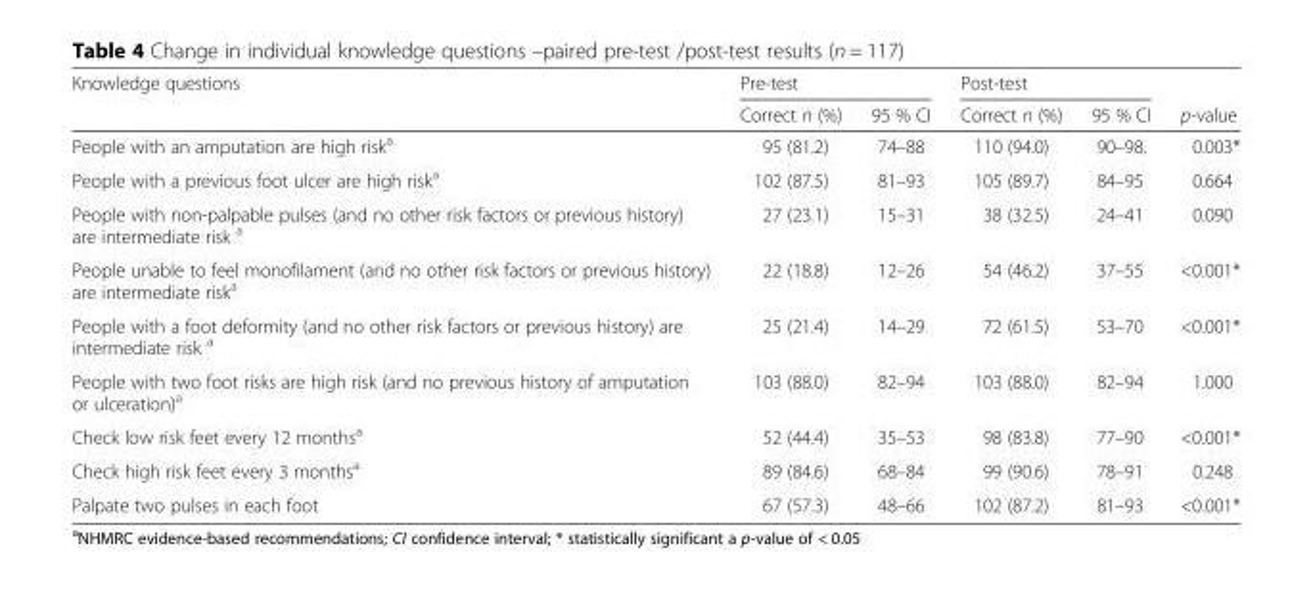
<table><thead><tr><td rowspan="2">Knowledge questions</td><td colspan="2">Pre-test</td><td colspan="2">Post-test</td><td rowspan="2">p-value</td></tr><tr><td>Correct n (%)</td><td>95 % CI</td><td>Correct n (%)</td><td>95 % CI</td></tr></thead><tbody><tr><td>People with an amputation are high risk<sup>a</sup></td><td>95 (81.2)</td><td>74–88</td><td>110 (94.0)</td><td>90–98.</td><td>0.003*</td></tr><tr><td>People with a previous foot ulcer are high risk<sup>a</sup></td><td>102 (87.5)</td><td>81–93</td><td>105 (89.7)</td><td>84–95</td><td>0.664</td></tr><tr><td>People with non-palpable pulses (and no other risk factors or previous history) are intermediate risk <sup>a</sup></td><td>27 (23.1)</td><td>15–31</td><td>38 (32.5)</td><td>24–41</td><td>0.090</td></tr><tr><td>People unable to feel monofilament (and no other risk factors or previous history) are intermediate risk<sup>a</sup></td><td>22 (18.8)</td><td>12–26</td><td>54 (46.2)</td><td>37–55</td><td>&lt;0.001*</td></tr><tr><td>People with a foot deformity (and no other risk factors or previous history) are intermediate risk <sup>a</sup></td><td>25 (21.4)</td><td>14–29</td><td>72 (61.5)</td><td>53–70</td><td>&lt;0.001*</td></tr><tr><td>People with two foot risks are high risk (and no previous history of amputation or ulceration)<sup>a</sup></td><td>103 (88.0)</td><td>82–94</td><td>103 (88.0)</td><td>82–94</td><td>1.000</td></tr><tr><td>Check low risk feet every 12 months<sup>a</sup></td><td>52 (44.4)</td><td>35–53</td><td>98 (83.8)</td><td>77–90</td><td>&lt;0.001*</td></tr><tr><td>Check high risk feet every 3 months<sup>a</sup></td><td>89 (84.6)</td><td>68–84</td><td>99 (90.6)</td><td>78–91</td><td>0.248</td></tr><tr><td>Palpate two pulses in each foot</td><td>67 (57.3)</td><td>48–66</td><td>102 (87.2)</td><td>81–93</td><td>&lt;0.001*</td></tr></tbody></table>